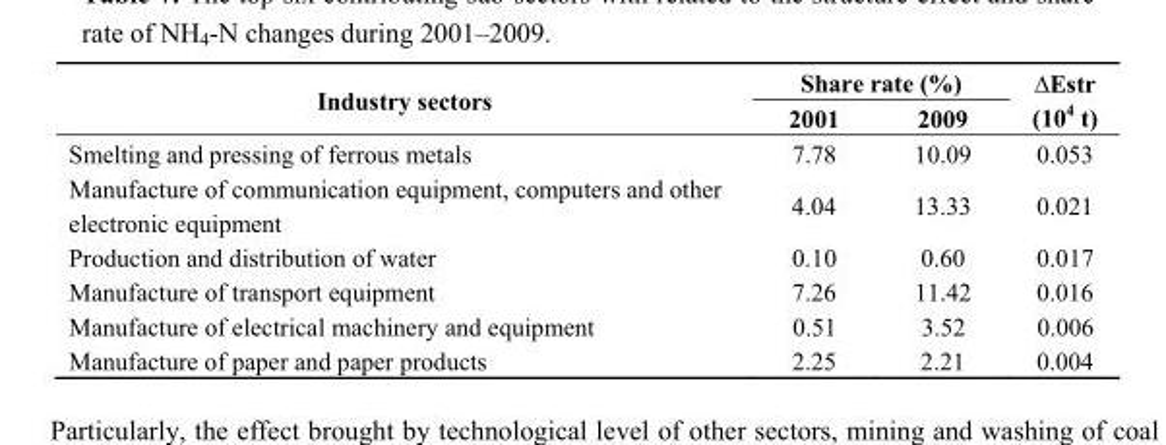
<table><thead><tr><td rowspan="2">Industry sectors</td><td colspan="2">Share rate (%)</td><td rowspan="2">∆Estr (10<sup>4</sup> t)</td></tr><tr><td>2001</td><td>2009</td></tr></thead><tbody><tr><td>Smelting and pressing of ferrous metals</td><td>7.78</td><td>10.09</td><td>0.053</td></tr><tr><td>Manufacture of communication equipment, computers and other electronic equipment</td><td>4.04</td><td>13.33</td><td>0.021</td></tr><tr><td>Production and distribution of water</td><td>0.10</td><td>0.60</td><td>0.017</td></tr><tr><td>Manufacture of transport equipment</td><td>7.26</td><td>11.42</td><td>0.016</td></tr><tr><td>Manufacture of electrical machinery and equipment</td><td>0.51</td><td>3.52</td><td>0.006</td></tr><tr><td>Manufacture of paper and paper products</td><td>2.25</td><td>2.21</td><td>0.004</td></tr></tbody></table>